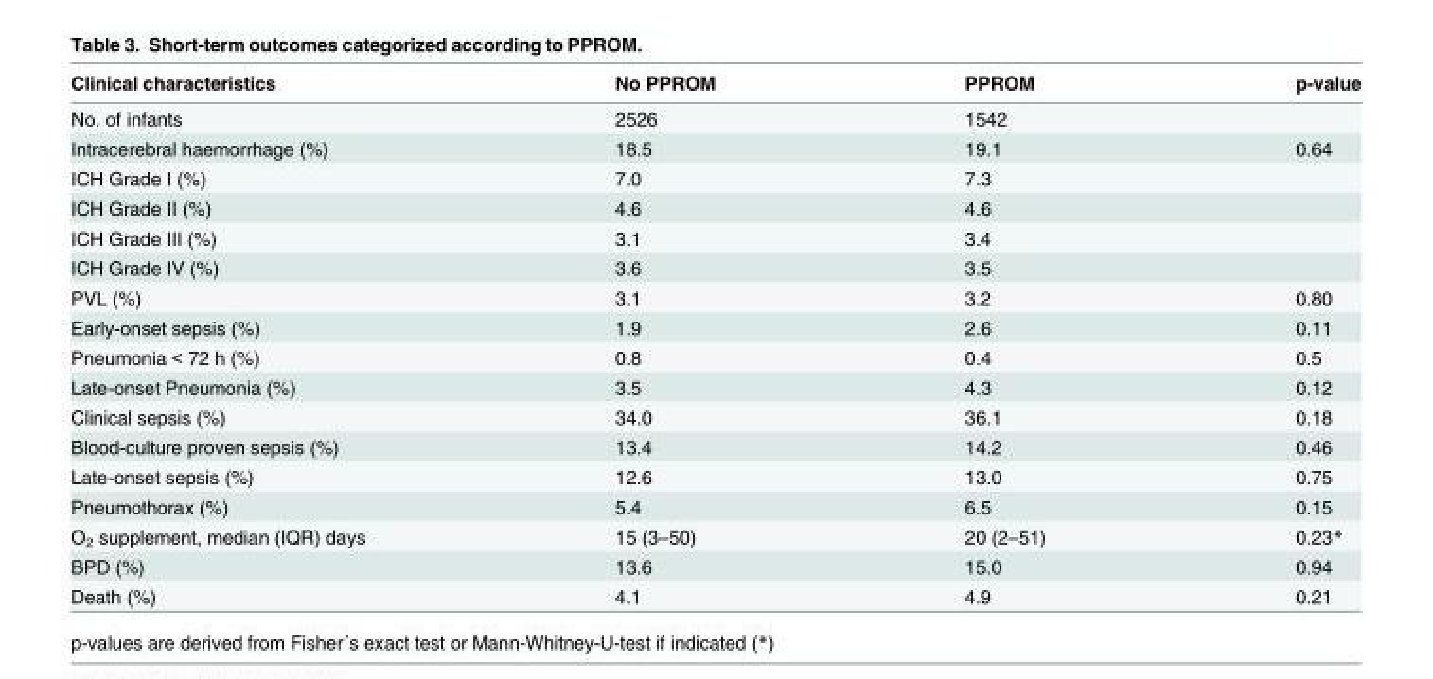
<table><thead><tr><td>Clinical characteristics</td><td>No PPROM</td><td>PPROM</td><td>p-value</td></tr></thead><tbody><tr><td>No. of infants</td><td>2526</td><td>1542</td><td></td></tr><tr><td>Intracerebral haemorrhage (%)</td><td>18.5</td><td>19.1</td><td>0.64</td></tr><tr><td>ICH Grade I (%)</td><td>7.0</td><td>7.3</td><td></td></tr><tr><td>ICH Grade II (%)</td><td>4.6</td><td>4.6</td><td></td></tr><tr><td>ICH Grade III (%)</td><td>3.1</td><td>3.4</td><td></td></tr><tr><td>ICH Grade IV (%)</td><td>3.6</td><td>3.5</td><td></td></tr><tr><td>PVL (%)</td><td>3.1</td><td>3.2</td><td>0.80</td></tr><tr><td>Early-onset sepsis (%)</td><td>1.9</td><td>2.6</td><td>0.11</td></tr><tr><td>Pneumonia &lt; 72 h (%)</td><td>0.8</td><td>0.4</td><td>0.5</td></tr><tr><td>Late-onset Pneumonia (%)</td><td>3.5</td><td>4.3</td><td>0.12</td></tr><tr><td>Clinical sepsis (%)</td><td>34.0</td><td>36.1</td><td>0.18</td></tr><tr><td>Blood-culture proven sepsis (%)</td><td>13.4</td><td>14.2</td><td>0.46</td></tr><tr><td>Late-onset sepsis (%)</td><td>12.6</td><td>13.0</td><td>0.75</td></tr><tr><td>Pneumothorax (%)</td><td>5.4</td><td>6.5</td><td>0.15</td></tr><tr><td>O<sub>2</sub> supplement, median (IQR) days</td><td>15 (3–50)</td><td>20 (2–51)</td><td>0.23*</td></tr><tr><td>BPD (%)</td><td>13.6</td><td>15.0</td><td>0.94</td></tr><tr><td>Death (%)</td><td>4.1</td><td>4.9</td><td>0.21</td></tr></tbody></table>